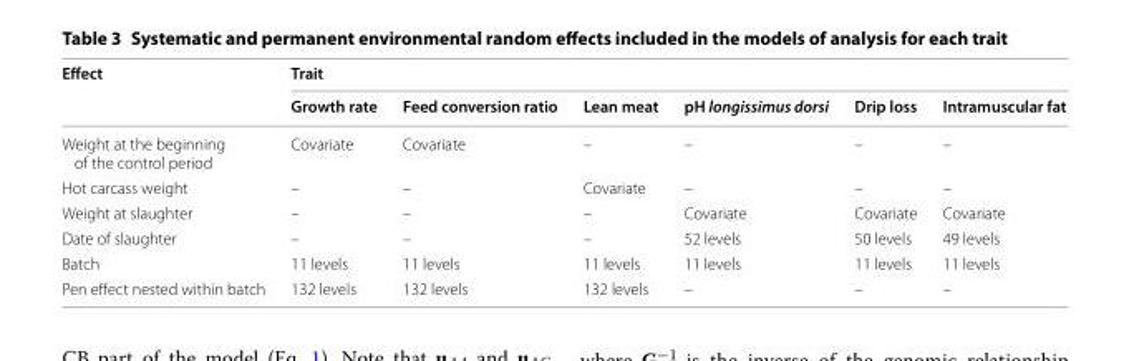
<table><thead><tr><td rowspan="2">Effect</td><td colspan="6">Trait</td></tr><tr><td>Growth rate</td><td>Feed conversion ratio</td><td>Lean meat</td><td>pH longissimus dorsi</td><td>Drip loss</td><td>Intramuscular fat</td></tr></thead><tbody><tr><td>Weight at the beginning of the control period</td><td>Covariate</td><td>Covariate</td><td>–</td><td>–</td><td>–</td><td>–</td></tr><tr><td>Hot carcass weight</td><td>–</td><td>–</td><td>Covariate</td><td>–</td><td>–</td><td>–</td></tr><tr><td>Weight at slaughter</td><td>–</td><td>–</td><td>–</td><td>Covariate</td><td>Covariate</td><td>Covariate</td></tr><tr><td>Date of slaughter</td><td>–</td><td>–</td><td>–</td><td>52 levels</td><td>50 levels</td><td>49 levels</td></tr><tr><td>Batch</td><td>11 levels</td><td>11 levels</td><td>11 levels</td><td>11 levels</td><td>11 levels</td><td>11 levels</td></tr><tr><td>Pen effect nested within batch</td><td>132 levels</td><td>132 levels</td><td>132 levels</td><td>–</td><td>–</td><td>–</td></tr></tbody></table>